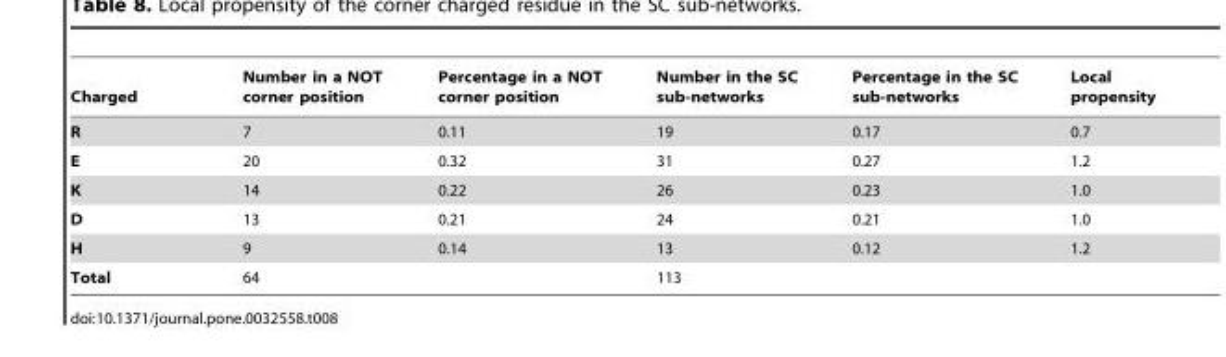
<table><thead><tr><td>Charged</td><td>Number in a NOT corner position</td><td>Percentage in a NOT corner position</td><td>Number in the SC sub-networks</td><td>Percentage in the SC sub-networks</td><td>Local propensity</td></tr></thead><tbody><tr><td>R</td><td>7</td><td>0.11</td><td>19</td><td>0.17</td><td>0.7</td></tr><tr><td>E</td><td>20</td><td>0.32</td><td>31</td><td>0.27</td><td>1.2</td></tr><tr><td>K</td><td>14</td><td>0.22</td><td>26</td><td>0.23</td><td>1.0</td></tr><tr><td>D</td><td>13</td><td>0.21</td><td>24</td><td>0.21</td><td>1.0</td></tr><tr><td>H</td><td>9</td><td>0.14</td><td>13</td><td>0.12</td><td>1.2</td></tr><tr><td>Total</td><td>64</td><td></td><td>113</td><td></td><td></td></tr></tbody></table>